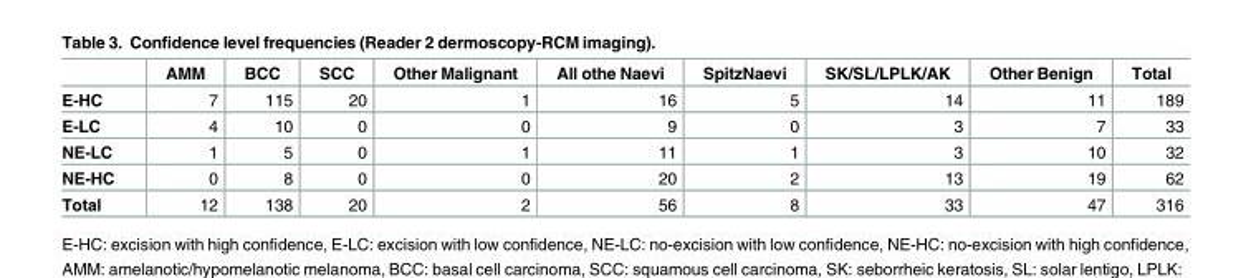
<table><thead><tr><td></td><td>AMM</td><td>BCC</td><td>SCC</td><td>Other Malignant</td><td>All othe Naevi</td><td>SpitzNaevi</td><td>SK/SL/LPLK/AK</td><td>Other Benign</td><td>Total</td></tr></thead><tbody><tr><td>E-HC</td><td>7</td><td>115</td><td>20</td><td>1</td><td>16</td><td>5</td><td>14</td><td>11</td><td>189</td></tr><tr><td>E-LC</td><td>4</td><td>10</td><td>0</td><td>0</td><td>9</td><td>0</td><td>3</td><td>7</td><td>33</td></tr><tr><td>NE-LC</td><td>1</td><td>5</td><td>0</td><td>1</td><td>11</td><td>1</td><td>3</td><td>10</td><td>32</td></tr><tr><td>NE-HC</td><td>0</td><td>8</td><td>0</td><td>0</td><td>20</td><td>2</td><td>13</td><td>19</td><td>62</td></tr><tr><td>Total</td><td>12</td><td>138</td><td>20</td><td>2</td><td>56</td><td>8</td><td>33</td><td>47</td><td>316</td></tr></tbody></table>